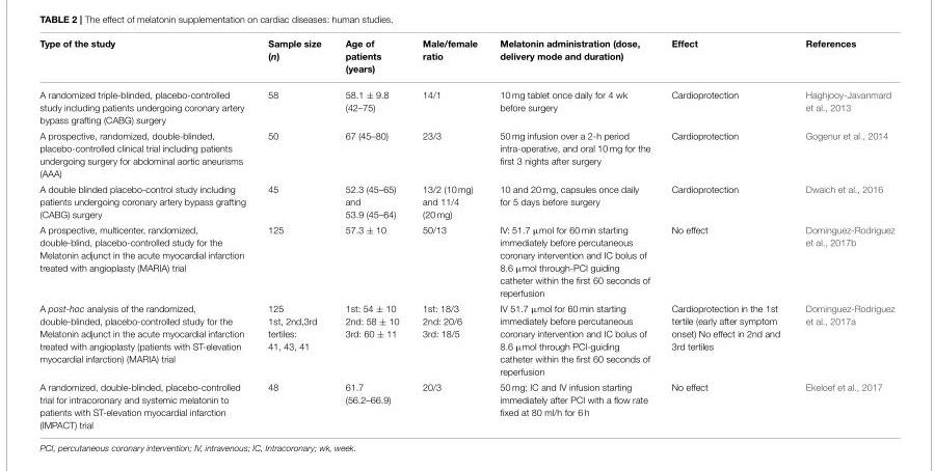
<table><thead><tr><td>Type of the study</td><td>Sample size (n)</td><td>Age of patients (years)</td><td>Male/female ratio</td><td>Melatonin administration (dose, delivery mode and duration)</td><td>Effect</td><td>References</td></tr></thead><tbody><tr><td>A randomized triple-blinded, placebo-controlled study including patients undergoing coronary artery bypass grafting (CABG) surgery</td><td>58</td><td>58.1 ± 9.8 (42–75)</td><td>14/1</td><td>10 mg tablet once daily for 4 wk before surgery</td><td>Cardioprotection</td><td>Haghjooy-Javanmard et al., 2013</td></tr><tr><td>A prospective, randomized, double-blinded, placebo-controlled clinical trial including patients undergoing surgery for abdominal aortic aneurisms (AAA)</td><td>50</td><td>67 (45–80)</td><td>23/3</td><td>50 mg infusion over a 2-h period intra-operative, and oral 10 mg for the first 3 nights after surgery</td><td>Cardioprotection</td><td>Gogenur et al., 2014</td></tr><tr><td>A double blinded placebo-control study including patients undergoing coronary artery bypass grafting (CABG) surgery</td><td>45</td><td>52.3 (45–65) and 53.9 (45–64)</td><td>13/2 (10 mg) and 11/4 (20 mg)</td><td>10 and 20 mg, capsules once daily for 5 days before surgery</td><td>Cardioprotection</td><td>Dwaich et al., 2016</td></tr><tr><td>A prospective, multicenter, randomized, double-blind, placebo-controlled study for the Melatonin adjunct in the acute myocardial infarction treated with angioplasty (MARIA) trial</td><td>125</td><td>57.3 ± 10</td><td>50/13</td><td>IV: 51.7 µmol for 60 min starting immediately before percutaneous coronary intervention and IC bolus of 8.6 µmol through-PCI guiding catheter within the first 60 seconds of reperfusion</td><td>No effect</td><td>Dominguez-Rodriguez et al., 2017b</td></tr><tr><td>A post-hoc analysis of the randomized, double-blinded, placebo-controlled study for the Melatonin adjunct in the acute myocardial infarction treated with angioplasty (patients with ST-elevation myocardial infarction) (MARIA) trial</td><td>125 1st, 2nd,3rd tertiles: 41, 43, 41</td><td>1st: 54 ± 10 2nd: 58 ± 10 3rd: 60 ± 11</td><td>1st: 18/3 2nd: 20/6 3rd: 18/5</td><td>IV 51.7 µmol for 60 min starting immediately before percutaneous coronary intervention and IC bolus of 8.6 µmol through PCI-guiding catheter within the first 60 seconds of reperfusion</td><td>Cardioprotection in the 1st tertile (early after symptom onset) No effect in 2nd and 3rd tertiles</td><td>Dominguez-Rodriguez et al., 2017a</td></tr><tr><td>A randomized, double-blinded, placebo-controlled trial for intracoronary and systemic melatonin to patients with ST-elevation myocardial infarction (IMPACT) trial</td><td>48</td><td>61.7 (56.2–66.9)</td><td>20/3</td><td>50 mg; IC and IV infusion starting immediately after PCI with a flow rate fixed at 80 ml/h for 6 h</td><td>No effect</td><td>Ekeloef et al., 2017</td></tr></tbody></table>